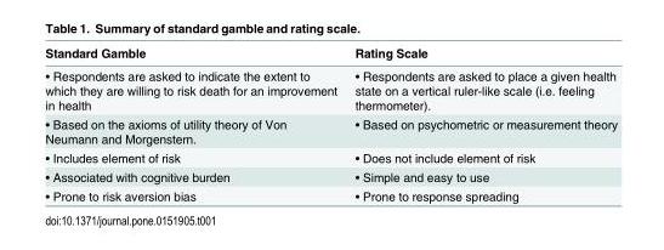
<table><thead><tr><td>Standard Gamble</td><td>Rating Scale</td></tr></thead><tbody><tr><td>• Respondents are asked to indicate the extent to which they are willing to risk death for an improvement in health</td><td>• Respondents are asked to place a given health state on a vertical ruler-like scale (i.e. feeling thermometer).</td></tr><tr><td>• Based on the axioms of utility theory of Von Neumann and Morgenstern.</td><td>• Based on psychometric or measurement theory</td></tr><tr><td>• Includes element of risk</td><td>• Does not include element of risk</td></tr><tr><td>• Associated with cognitive burden</td><td>• Simple and easy to use</td></tr><tr><td>• Prone to risk aversion bias</td><td>• Prone to response spreading</td></tr></tbody></table>